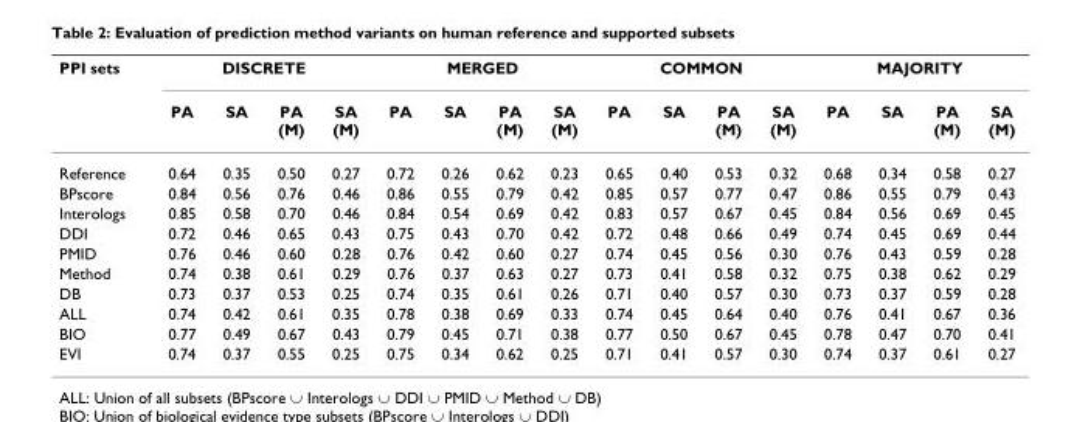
<table><thead><tr><td rowspan="2">PPI sets</td><td colspan="4">DISCRETE</td><td colspan="4">MERGED</td><td colspan="4">COMMON</td><td colspan="4">MAJORITY</td></tr><tr><td>PA</td><td>SA</td><td>PA (M)</td><td>SA (M)</td><td>PA</td><td>SA</td><td>PA (M)</td><td>SA (M)</td><td>PA</td><td>SA</td><td>PA (M)</td><td>SA (M)</td><td>PA</td><td>SA</td><td>PA (M)</td><td>SA (M)</td></tr></thead><tbody><tr><td>Reference</td><td>0.64</td><td>0.35</td><td>0.50</td><td>0.27</td><td>0.72</td><td>0.26</td><td>0.62</td><td>0.23</td><td>0.65</td><td>0.40</td><td>0.53</td><td>0.32</td><td>0.68</td><td>0.34</td><td>0.58</td><td>0.27</td></tr><tr><td>BPscore</td><td>0.84</td><td>0.56</td><td>0.76</td><td>0.46</td><td>0.86</td><td>0.55</td><td>0.79</td><td>0.42</td><td>0.85</td><td>0.57</td><td>0.77</td><td>0.47</td><td>0.86</td><td>0.55</td><td>0.79</td><td>0.43</td></tr><tr><td>Interologs</td><td>0.85</td><td>0.58</td><td>0.70</td><td>0.46</td><td>0.84</td><td>0.54</td><td>0.69</td><td>0.42</td><td>0.83</td><td>0.57</td><td>0.67</td><td>0.45</td><td>0.84</td><td>0.56</td><td>0.69</td><td>0.45</td></tr><tr><td>DDI</td><td>0.72</td><td>0.46</td><td>0.65</td><td>0.43</td><td>0.75</td><td>0.43</td><td>0.70</td><td>0.42</td><td>0.72</td><td>0.48</td><td>0.66</td><td>0.49</td><td>0.74</td><td>0.45</td><td>0.69</td><td>0.44</td></tr><tr><td>PMID</td><td>0.76</td><td>0.46</td><td>0.60</td><td>0.28</td><td>0.76</td><td>0.42</td><td>0.60</td><td>0.27</td><td>0.74</td><td>0.45</td><td>0.56</td><td>0.30</td><td>0.76</td><td>0.43</td><td>0.59</td><td>0.28</td></tr><tr><td>Method</td><td>0.74</td><td>0.38</td><td>0.61</td><td>0.29</td><td>0.76</td><td>0.37</td><td>0.63</td><td>0.27</td><td>0.73</td><td>0.41</td><td>0.58</td><td>0.32</td><td>0.75</td><td>0.38</td><td>0.62</td><td>0.29</td></tr><tr><td>DB</td><td>0.73</td><td>0.37</td><td>0.53</td><td>0.25</td><td>0.74</td><td>0.35</td><td>0.61</td><td>0.26</td><td>0.71</td><td>0.40</td><td>0.57</td><td>0.30</td><td>0.73</td><td>0.37</td><td>0.59</td><td>0.28</td></tr><tr><td>ALL</td><td>0.74</td><td>0.42</td><td>0.61</td><td>0.35</td><td>0.78</td><td>0.38</td><td>0.69</td><td>0.33</td><td>0.74</td><td>0.45</td><td>0.64</td><td>0.40</td><td>0.76</td><td>0.41</td><td>0.67</td><td>0.36</td></tr><tr><td>BIO</td><td>0.77</td><td>0.49</td><td>0.67</td><td>0.43</td><td>0.79</td><td>0.45</td><td>0.71</td><td>0.38</td><td>0.77</td><td>0.50</td><td>0.67</td><td>0.45</td><td>0.78</td><td>0.47</td><td>0.70</td><td>0.41</td></tr><tr><td>EVI</td><td>0.74</td><td>0.37</td><td>0.55</td><td>0.25</td><td>0.75</td><td>0.34</td><td>0.62</td><td>0.25</td><td>0.71</td><td>0.41</td><td>0.57</td><td>0.30</td><td>0.74</td><td>0.37</td><td>0.61</td><td>0.27</td></tr></tbody></table>